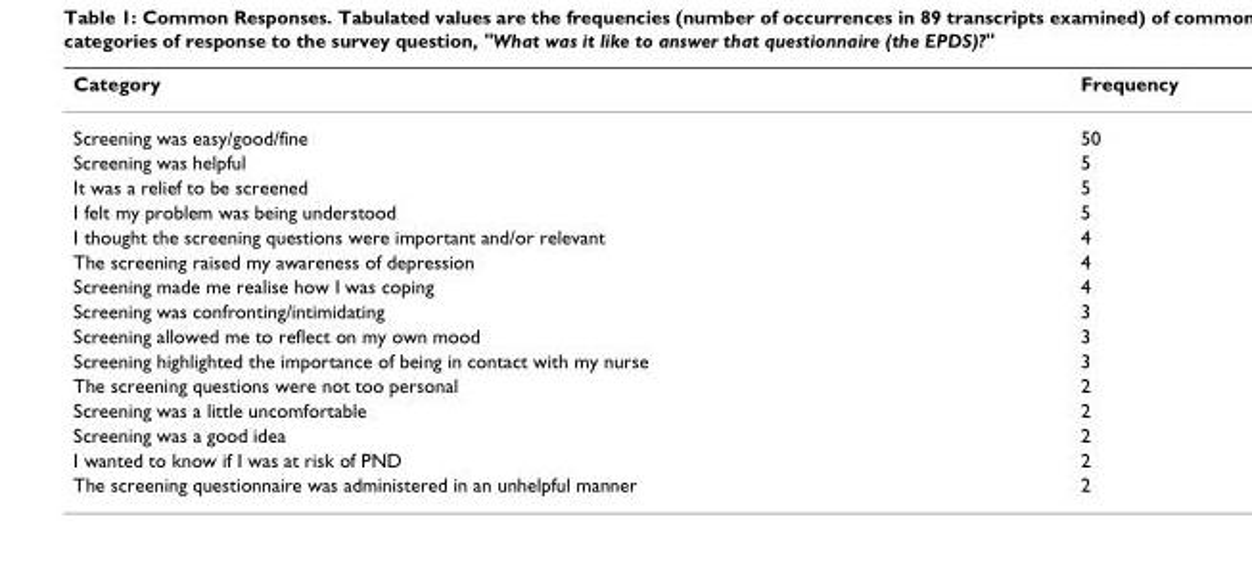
<table><thead><tr><td>Category</td><td>Frequency</td></tr></thead><tbody><tr><td>Screening was easy/good/fine</td><td>50</td></tr><tr><td>Screening was helpful</td><td>5</td></tr><tr><td>It was a relief to be screened</td><td>5</td></tr><tr><td>I felt my problem was being understood</td><td>5</td></tr><tr><td>I thought the screening questions were important and/or relevant</td><td>4</td></tr><tr><td>The screening raised my awareness of depression</td><td>4</td></tr><tr><td>Screening made me realise how I was coping</td><td>4</td></tr><tr><td>Screening was confronting/intimidating</td><td>3</td></tr><tr><td>Screening allowed me to reflect on my own mood</td><td>3</td></tr><tr><td>Screening highlighted the importance of being in contact with my nurse</td><td>3</td></tr><tr><td>The screening questions were not too personal</td><td>2</td></tr><tr><td>Screening was a little uncomfortable</td><td>2</td></tr><tr><td>Screening was a good idea</td><td>2</td></tr><tr><td>I wanted to know if I was at risk of PND</td><td>2</td></tr><tr><td>The screening questionnaire was administered in an unhelpful manner</td><td>2</td></tr></tbody></table>